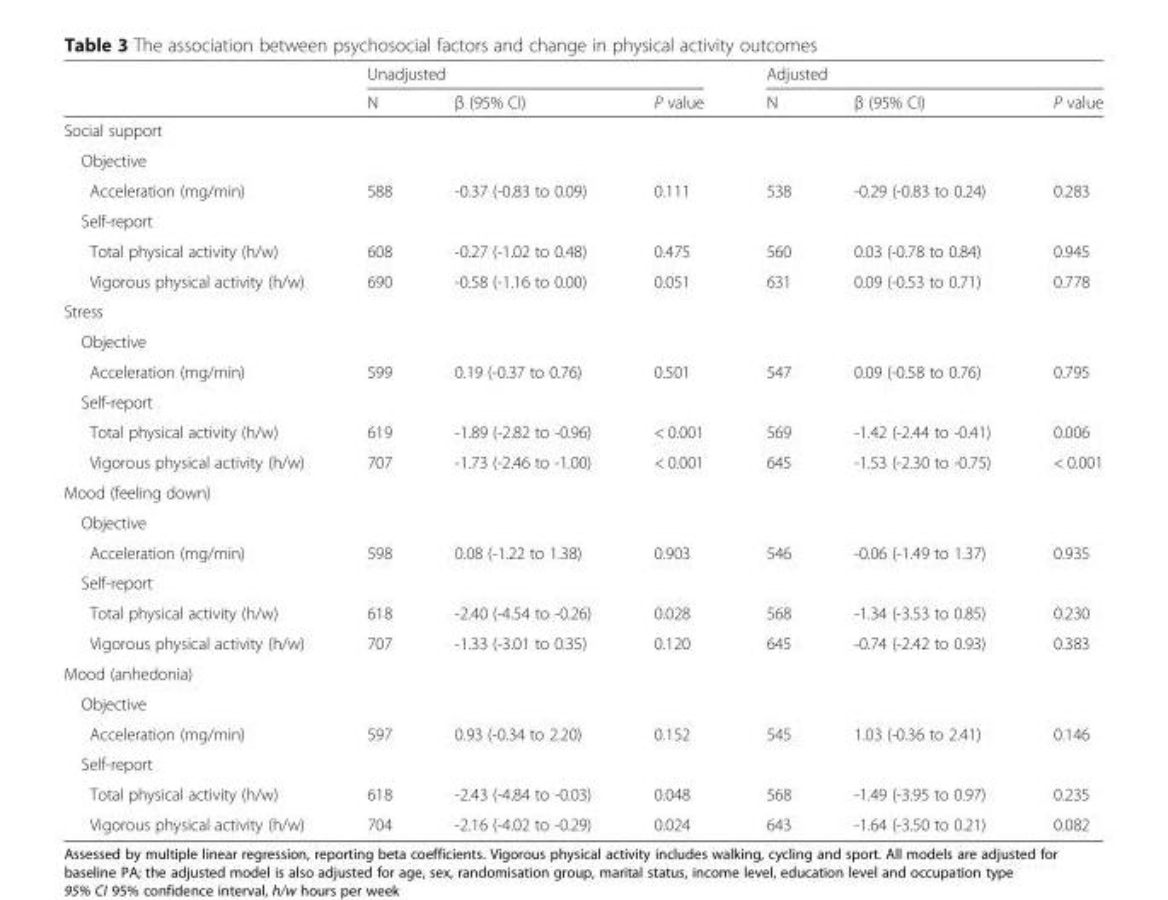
<table><thead><tr><td rowspan="2"></td><td colspan="3">Unadjusted</td><td colspan="3">Adjusted</td></tr><tr><td>N</td><td>β (95% CI)</td><td>P value</td><td>N</td><td>β (95% CI)</td><td>P value</td></tr></thead><tbody><tr><td colspan="7">Social support</td></tr><tr><td colspan="7">Objective</td></tr><tr><td>Acceleration (mg/min)</td><td>588</td><td>-0.37 (-0.83 to 0.09)</td><td>0.111</td><td>538</td><td>-0.29 (-0.83 to 0.24)</td><td>0.283</td></tr><tr><td colspan="7">Self-report</td></tr><tr><td>Total physical activity (h/w)</td><td>608</td><td>-0.27 (-1.02 to 0.48)</td><td>0.475</td><td>560</td><td>0.03 (-0.78 to 0.84)</td><td>0.945</td></tr><tr><td>Vigorous physical activity (h/w)</td><td>690</td><td>-0.58 (-1.16 to 0.00)</td><td>0.051</td><td>631</td><td>0.09 (-0.53 to 0.71)</td><td>0.778</td></tr><tr><td colspan="7">Stress</td></tr><tr><td colspan="7">Objective</td></tr><tr><td>Acceleration (mg/min)</td><td>599</td><td>0.19 (-0.37 to 0.76)</td><td>0.501</td><td>547</td><td>0.09 (-0.58 to 0.76)</td><td>0.795</td></tr><tr><td colspan="7">Self-report</td></tr><tr><td>Total physical activity (h/w)</td><td>619</td><td>-1.89 (-2.82 to -0.96)</td><td>&lt; 0.001</td><td>569</td><td>-1.42 (-2.44 to -0.41)</td><td>0.006</td></tr><tr><td>Vigorous physical activity (h/w)</td><td>707</td><td>-1.73 (-2.46 to -1.00)</td><td>&lt; 0.001</td><td>645</td><td>-1.53 (-2.30 to -0.75)</td><td>&lt; 0.001</td></tr><tr><td colspan="7">Mood (feeling down)</td></tr><tr><td colspan="7">Objective</td></tr><tr><td>Acceleration (mg/min)</td><td>598</td><td>0.08 (-1.22 to 1.38)</td><td>0.903</td><td>546</td><td>-0.06 (-1.49 to 1.37)</td><td>0.935</td></tr><tr><td colspan="7">Self-report</td></tr><tr><td>Total physical activity (h/w)</td><td>618</td><td>-2.40 (-4.54 to -0.26)</td><td>0.028</td><td>568</td><td>-1.34 (-3.53 to 0.85)</td><td>0.230</td></tr><tr><td>Vigorous physical activity (h/w)</td><td>707</td><td>-1.33 (-3.01 to 0.35)</td><td>0.120</td><td>645</td><td>-0.74 (-2.42 to 0.93)</td><td>0.383</td></tr><tr><td colspan="7">Mood (anhedonia)</td></tr><tr><td colspan="7">Objective</td></tr><tr><td>Acceleration (mg/min)</td><td>597</td><td>0.93 (-0.34 to 2.20)</td><td>0.152</td><td>545</td><td>1.03 (-0.36 to 2.41)</td><td>0.146</td></tr><tr><td colspan="7">Self-report</td></tr><tr><td>Total physical activity (h/w)</td><td>618</td><td>-2.43 (-4.84 to -0.03)</td><td>0.048</td><td>568</td><td>-1.49 (-3.95 to 0.97)</td><td>0.235</td></tr><tr><td>Vigorous physical activity (h/w)</td><td>704</td><td>-2.16 (-4.02 to -0.29)</td><td>0.024</td><td>643</td><td>-1.64 (-3.50 to 0.21)</td><td>0.082</td></tr></tbody></table>